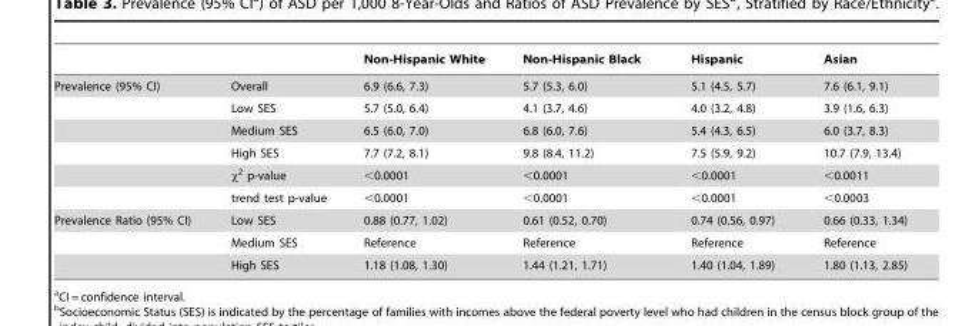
<table><thead><tr><td></td><td></td><td>Non-Hispanic White</td><td>Non-Hispanic Black</td><td>Hispanic</td><td>Asian</td></tr></thead><tbody><tr><td rowspan="6">Prevalence (95% CI)</td><td>Overall</td><td>6.9 (6.6, 7.3)</td><td>5.7 (5.3, 6.0)</td><td>5.1 (4.5, 5.7)</td><td>7.6 (6.1, 9.1)</td></tr><tr><td>Low SES</td><td>5.7 (5.0, 6.4)</td><td>4.1 (3.7, 4.6)</td><td>4.0 (3.2, 4.8)</td><td>3.9 (1.6, 6.3)</td></tr><tr><td>Medium SES</td><td>6.5 (6.0, 7.0)</td><td>6.8 (6.0, 7.6)</td><td>5.4 (4.3, 6.5)</td><td>6.0 (3.7, 8.3)</td></tr><tr><td>High SES</td><td>7.7 (7.2, 8.1)</td><td>9.8 (8.4, 11.2)</td><td>7.5 (5.9, 9.2)</td><td>10.7 (7.9, 13.4)</td></tr><tr><td>χ<sup>2</sup> p-value</td><td>&lt;0.0001</td><td>&lt;0.0001</td><td>&lt;0.0001</td><td>&lt;0.0011</td></tr><tr><td>trend test p-value</td><td>&lt;0.0001</td><td>&lt;0.0001</td><td>&lt;0.0001</td><td>&lt;0.0003</td></tr><tr><td rowspan="3">Prevalence Ratio (95% CI)</td><td>Low SES</td><td>0.88 (0.77, 1.02)</td><td>0.61 (0.52, 0.70)</td><td>0.74 (0.56, 0.97)</td><td>0.66 (0.33, 1.34)</td></tr><tr><td>Medium SES</td><td>Reference</td><td>Reference</td><td>Reference</td><td>Reference</td></tr><tr><td>High SES</td><td>1.18 (1.08, 1.30)</td><td>1.44 (1.21, 1.71)</td><td>1.40 (1.04, 1.89)</td><td>1.80 (1.13, 2.85)</td></tr></tbody></table>